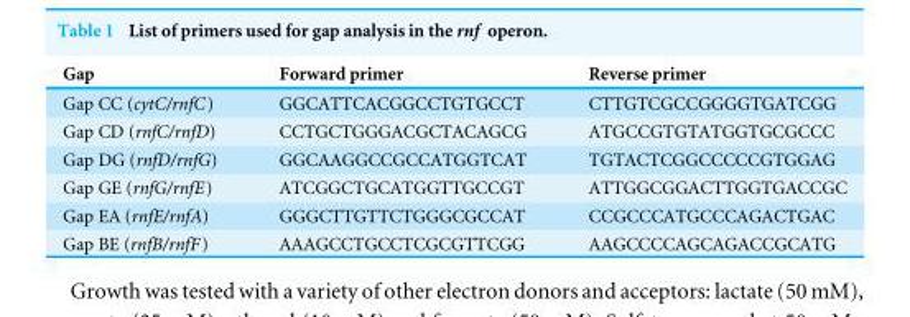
<table><thead><tr><td>Gap</td><td>Forward primer</td><td>Reverse primer</td></tr></thead><tbody><tr><td>Gap CC (cytC/rnfC)</td><td>GGCATTCACGGCCTGTGCCT</td><td>CTTGTCGCCGGGGTGATCGG</td></tr><tr><td>Gap CD (rnfC/rnfD)</td><td>CCTGCTGGGACGCTACAGCG</td><td>ATGCCGTGTATGGTGCGCCC</td></tr><tr><td>Gap DG (rnfD/rnfG)</td><td>GGCAAGGCCGCCATGGTCAT</td><td>TGTACTCGGCCCCCGTGGAG</td></tr><tr><td>Gap GE (rnfG/rnfE)</td><td>ATCGGCTGCATGGTTGCCGT</td><td>ATTGGCGGACTTGGTGACCGC</td></tr><tr><td>Gap EA (rnfE/rnfA)</td><td>GGGCTTGTTCTGGGCGCCAT</td><td>CCGCCCATGCCCAGACTGAC</td></tr><tr><td>Gap BE (rnfB/rnfF)</td><td>AAAGCCTGCCTCGCGTTCGG</td><td>AAGCCCCAGCAGACCGCATG</td></tr></tbody></table>